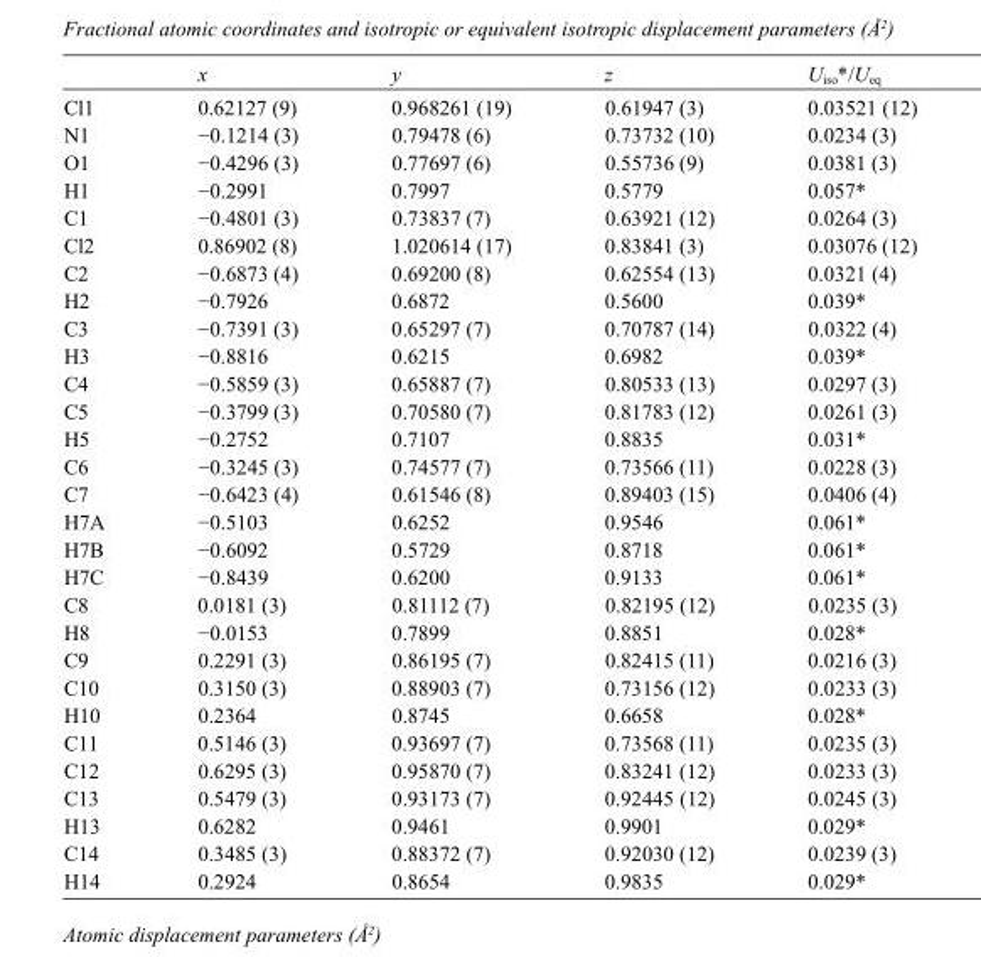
<table><thead><tr><td></td><td>x</td><td>y</td><td>z</td><td>U<sub>iso</sub>*/U<sub>eq</sub></td></tr></thead><tbody><tr><td>Cl1</td><td>0.62127 (9)</td><td>0.968261 (19)</td><td>0.61947 (3)</td><td>0.03521 (12)</td></tr><tr><td>N1</td><td>−0.1214 (3)</td><td>0.79478 (6)</td><td>0.73732 (10)</td><td>0.0234 (3)</td></tr><tr><td>O1</td><td>−0.4296 (3)</td><td>0.77697 (6)</td><td>0.55736 (9)</td><td>0.0381 (3)</td></tr><tr><td>H1</td><td>−0.2991</td><td>0.7997</td><td>0.5779</td><td>0.057*</td></tr><tr><td>C1</td><td>−0.4801 (3)</td><td>0.73837 (7)</td><td>0.63921 (12)</td><td>0.0264 (3)</td></tr><tr><td>Cl2</td><td>0.86902 (8)</td><td>1.020614 (17)</td><td>0.83841 (3)</td><td>0.03076 (12)</td></tr><tr><td>C2</td><td>−0.6873 (4)</td><td>0.69200 (8)</td><td>0.62554 (13)</td><td>0.0321 (4)</td></tr><tr><td>H2</td><td>−0.7926</td><td>0.6872</td><td>0.5600</td><td>0.039*</td></tr><tr><td>C3</td><td>−0.7391 (3)</td><td>0.65297 (7)</td><td>0.70787 (14)</td><td>0.0322 (4)</td></tr><tr><td>H3</td><td>−0.8816</td><td>0.6215</td><td>0.6982</td><td>0.039*</td></tr><tr><td>C4</td><td>−0.5859 (3)</td><td>0.65887 (7)</td><td>0.80533 (13)</td><td>0.0297 (3)</td></tr><tr><td>C5</td><td>−0.3799 (3)</td><td>0.70580 (7)</td><td>0.81783 (12)</td><td>0.0261 (3)</td></tr><tr><td>H5</td><td>−0.2752</td><td>0.7107</td><td>0.8835</td><td>0.031*</td></tr><tr><td>C6</td><td>−0.3245 (3)</td><td>0.74577 (7)</td><td>0.73566 (11)</td><td>0.0228 (3)</td></tr><tr><td>C7</td><td>−0.6423 (4)</td><td>0.61546 (8)</td><td>0.89403 (15)</td><td>0.0406 (4)</td></tr><tr><td>H7A</td><td>−0.5103</td><td>0.6252</td><td>0.9546</td><td>0.061*</td></tr><tr><td>H7B</td><td>−0.6092</td><td>0.5729</td><td>0.8718</td><td>0.061*</td></tr><tr><td>H7C</td><td>−0.8439</td><td>0.6200</td><td>0.9133</td><td>0.061*</td></tr><tr><td>C8</td><td>0.0181 (3)</td><td>0.81112 (7)</td><td>0.82195 (12)</td><td>0.0235 (3)</td></tr><tr><td>H8</td><td>−0.0153</td><td>0.7899</td><td>0.8851</td><td>0.028*</td></tr><tr><td>C9</td><td>0.2291 (3)</td><td>0.86195 (7)</td><td>0.82415 (11)</td><td>0.0216 (3)</td></tr><tr><td>C10</td><td>0.3150 (3)</td><td>0.88903 (7)</td><td>0.73156 (12)</td><td>0.0233 (3)</td></tr><tr><td>H10</td><td>0.2364</td><td>0.8745</td><td>0.6658</td><td>0.028*</td></tr><tr><td>C11</td><td>0.5146 (3)</td><td>0.93697 (7)</td><td>0.73568 (11)</td><td>0.0235 (3)</td></tr><tr><td>C12</td><td>0.6295 (3)</td><td>0.95870 (7)</td><td>0.83241 (12)</td><td>0.0233 (3)</td></tr><tr><td>C13</td><td>0.5479 (3)</td><td>0.93173 (7)</td><td>0.92445 (12)</td><td>0.0245 (3)</td></tr><tr><td>H13</td><td>0.6282</td><td>0.9461</td><td>0.9901</td><td>0.029*</td></tr><tr><td>C14</td><td>0.3485 (3)</td><td>0.88372 (7)</td><td>0.92030 (12)</td><td>0.0239 (3)</td></tr><tr><td>H14</td><td>0.2924</td><td>0.8654</td><td>0.9835</td><td>0.029*</td></tr></tbody></table>